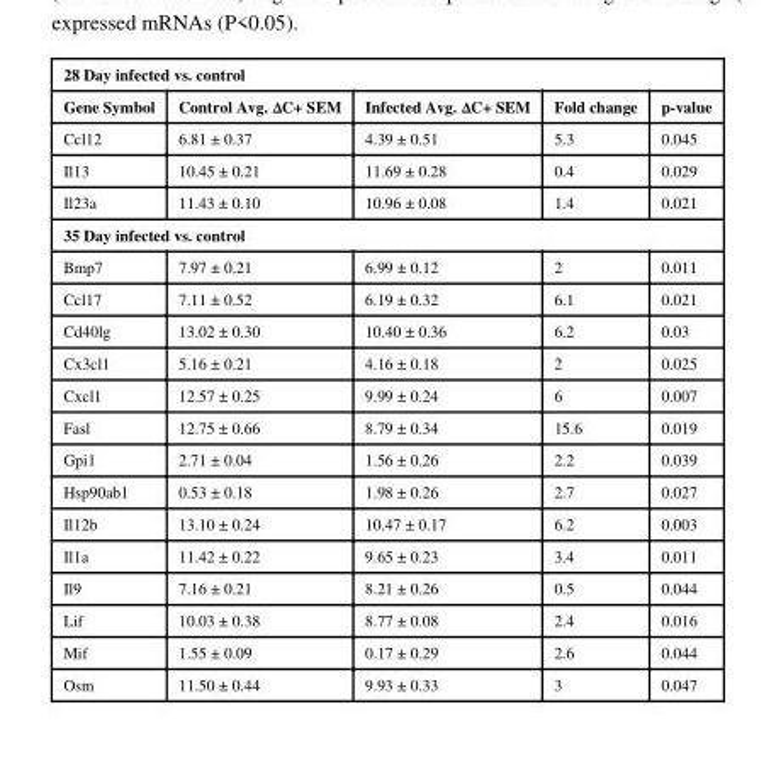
<table><thead><tr><td colspan="5">28 Day infected vs. control</td></tr><tr><td>Gene Symbol</td><td>Control Avg. ΔC+ SEM</td><td>Infected Avg. ΔC+ SEM</td><td>Fold change</td><td>p-value</td></tr></thead><tbody><tr><td>Ccl12</td><td>6.81 ± 0.37</td><td>4.39 ± 0.51</td><td>5.3</td><td>0.045</td></tr><tr><td>Il13</td><td>10.45 ± 0.21</td><td>11.69 ± 0.28</td><td>0.4</td><td>0.029</td></tr><tr><td>Il23a</td><td>11.43 ± 0.10</td><td>10.96 ± 0.08</td><td>1.4</td><td>0.021</td></tr><tr><td colspan="5">35 Day infected vs. control</td></tr><tr><td>Bmp7</td><td>7.97 ± 0.21</td><td>6.99 ± 0.12</td><td>2</td><td>0.011</td></tr><tr><td>Ccl17</td><td>7.11 ± 0.52</td><td>6.19 ± 0.32</td><td>6.1</td><td>0.021</td></tr><tr><td>Cd40lg</td><td>13.02 ± 0.30</td><td>10.40 ± 0.36</td><td>6.2</td><td>0.03</td></tr><tr><td>Cx3cl1</td><td>5.16 ± 0.21</td><td>4.16 ± 0.18</td><td>2</td><td>0.025</td></tr><tr><td>Cxcl1</td><td>12.57 ± 0.25</td><td>9.99 ± 0.24</td><td>6</td><td>0.007</td></tr><tr><td>Fasl</td><td>12.75 ± 0.66</td><td>8.79 ± 0.34</td><td>15.6</td><td>0.019</td></tr><tr><td>Gpi1</td><td>2.71 ± 0.04</td><td>1.56 ± 0.26</td><td>2.2</td><td>0.039</td></tr><tr><td>Hsp90ab1</td><td>0.53 ± 0.18</td><td>1.98 ± 0.26</td><td>2.7</td><td>0.027</td></tr><tr><td>Il12b</td><td>13.10 ± 0.24</td><td>10.47 ± 0.17</td><td>6.2</td><td>0.003</td></tr><tr><td>Il1a</td><td>11.42 ± 0.22</td><td>9.65 ± 0.23</td><td>3.4</td><td>0.011</td></tr><tr><td>Il9</td><td>7.16 ± 0.21</td><td>8.21 ± 0.26</td><td>0.5</td><td>0.044</td></tr><tr><td>Lif</td><td>10.03 ± 0.38</td><td>8.77 ± 0.08</td><td>2.4</td><td>0.016</td></tr><tr><td>Mif</td><td>1.55 ± 0.09</td><td>0.17 ± 0.29</td><td>2.6</td><td>0.044</td></tr><tr><td>Osm</td><td>11.50 ± 0.44</td><td>9.93 ± 0.33</td><td>3</td><td>0.047</td></tr></tbody></table>